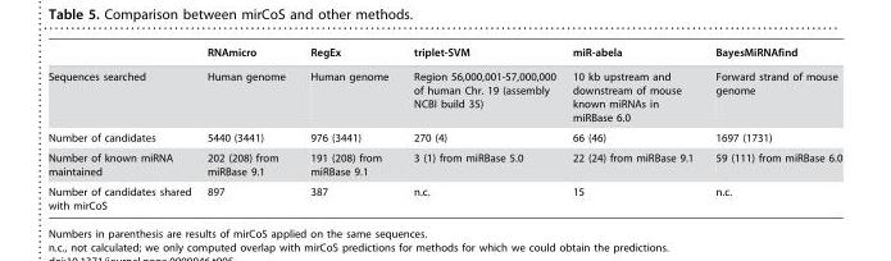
<table><thead><tr><td></td><td>RNAmicro</td><td>RegEx</td><td>triplet-SVM</td><td>miR-abela</td><td>BayesMiRNAfind</td></tr></thead><tbody><tr><td>Sequences searched</td><td>Human genome</td><td>Human genome</td><td>Region 56,000,001-57,000,000 of human Chr. 19 (assembly NCBI build 35)</td><td>10 kb upstream and downstream of mouse known miRNAs in miRBase 6.0</td><td>Forward strand of mouse genome</td></tr><tr><td>Number of candidates</td><td>5440 (3441)</td><td>976 (3441)</td><td>270 (4)</td><td>66 (46)</td><td>1697 (1731)</td></tr><tr><td>Number of known miRNA maintained</td><td>202 (208) from miRBase 9.1</td><td>191 (208) from miRBase 9.1</td><td>3 (1) from miRBase 5.0</td><td>22 (24) from miRBase 9.1</td><td>59 (111) from miRBase 6.0</td></tr><tr><td>Number of candidates shared with mirCoS</td><td>897</td><td>387</td><td>n.c.</td><td>15</td><td>n.c.</td></tr></tbody></table>